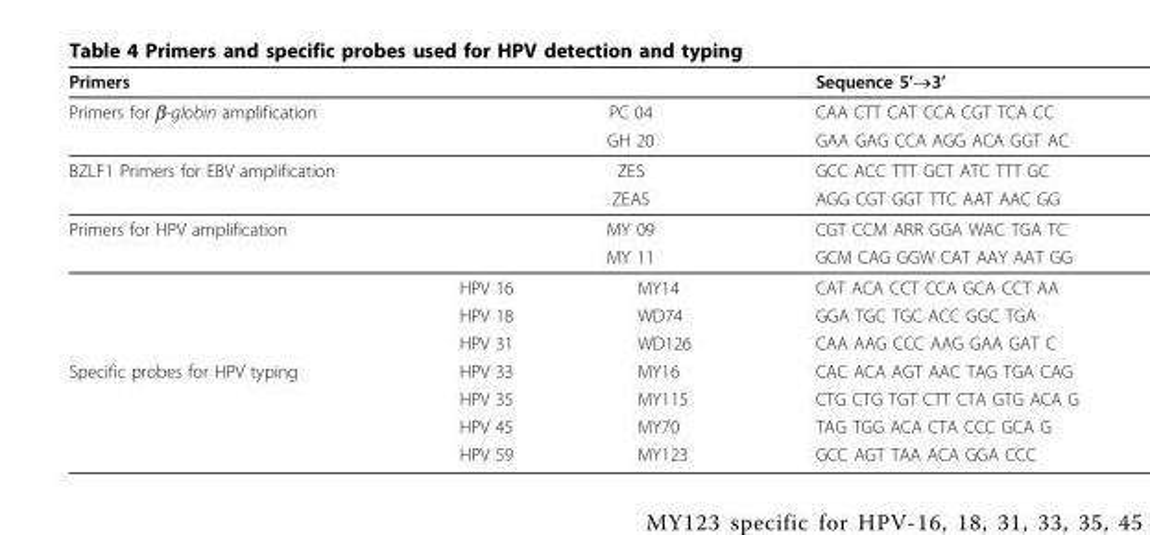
<table><thead><tr><td>Primers</td><td></td><td></td><td>Sequence 5’→3’</td></tr></thead><tbody><tr><td rowspan="2">Primers for β-globin amplification</td><td colspan="2">PC 04</td><td>CAA CTT CAT CCA CGT TCA CC</td></tr><tr><td colspan="2">GH 20</td><td>GAA GAG CCA AGG ACA GGT AC</td></tr><tr><td rowspan="2">BZLF1 Primers for EBV amplification</td><td colspan="2">ZES</td><td>GCC ACC TTT GCT ATC TTT GC</td></tr><tr><td colspan="2">ZEAS</td><td>AGG CGT GGT TTC AAT AAC GG</td></tr><tr><td rowspan="5">Primers for HPV amplification</td><td colspan="2">MY 09</td><td>CGT CCM ARR GGA WAC TGA TC</td></tr><tr><td colspan="2">MY 11</td><td>GCM CAG GGW CAT AAY AAT GG</td></tr><tr><td>HPV 16</td><td>MY14</td><td>CAT ACA CCT CCA GCA CCT AA</td></tr><tr><td>HPV 18</td><td>WD74</td><td>GGA TGC TGC ACC GGC TGA</td></tr><tr><td>HPV 31</td><td>WD126</td><td>CAA AAG CCC AAG GAA GAT C</td></tr><tr><td rowspan="4">Specific probes for HPV typing</td><td>HPV 33</td><td>MY16</td><td>CAC ACA AGT AAC TAG TGA CAG</td></tr><tr><td>HPV 35</td><td>MY115</td><td>CTG CTG TGT CTT CTA GTG ACA G</td></tr><tr><td>HPV 45</td><td>MY70</td><td>TAG TGG ACA CTA CCC GCA G</td></tr><tr><td>HPV 59</td><td>MY123</td><td>GCC AGT TAA ACA GGA CCC</td></tr></tbody></table>